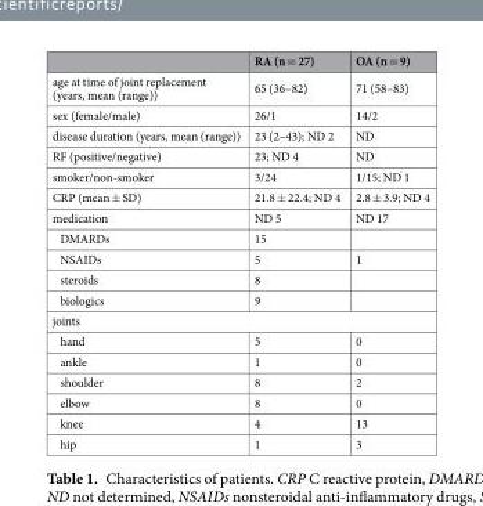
<table><thead><tr><td></td><td>RA (n = 27)</td><td>OA (n = 9)</td></tr></thead><tbody><tr><td>age at time of joint replacement (years, mean (range))</td><td>65 (36–82)</td><td>71 (58–83)</td></tr><tr><td>sex (female/male)</td><td>26/1</td><td>14/2</td></tr><tr><td>disease duration (years, mean (range))</td><td>23 (2–43); ND 2</td><td>ND</td></tr><tr><td>RF (positive/negative)</td><td>23; ND 4</td><td>ND</td></tr><tr><td>smoker/non-smoker</td><td>3/24</td><td>1/15; ND 1</td></tr><tr><td>CRP (mean ± SD)</td><td>21.8 ± 22.4; ND 4</td><td>2.8 ± 3.9; ND 4</td></tr><tr><td>medication</td><td>ND 5</td><td>ND 17</td></tr><tr><td>DMARDs</td><td>15</td><td></td></tr><tr><td>NSAIDs</td><td>5</td><td>1</td></tr><tr><td>steroids</td><td>8</td><td></td></tr><tr><td>biologics</td><td>9</td><td></td></tr><tr><td colspan="3">joints</td></tr><tr><td>hand</td><td>5</td><td>0</td></tr><tr><td>ankle</td><td>1</td><td>0</td></tr><tr><td>shoulder</td><td>8</td><td>2</td></tr><tr><td>elbow</td><td>8</td><td>0</td></tr><tr><td>knee</td><td>4</td><td>13</td></tr><tr><td>hip</td><td>1</td><td>3</td></tr></tbody></table>